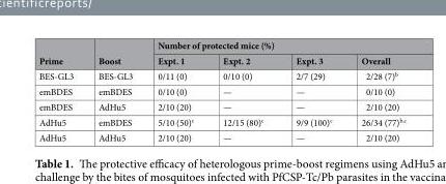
<table><thead><tr><td rowspan="2">Prime</td><td rowspan="2">Boost</td><td colspan="4">Number of protected mice (%)</td></tr><tr><td>Expt. 1</td><td>Expt. 2</td><td>Expt. 3</td><td>Overall</td></tr></thead><tbody><tr><td>BES-GL3</td><td>BES-GL3</td><td>0/11 (0)</td><td>0/10 (0)</td><td>2/7 (29)</td><td>2/28 (7)<sup>b</sup></td></tr><tr><td>emBDES</td><td>emBDES</td><td>0/10 (0)</td><td>—</td><td>—</td><td>0/10 (0)</td></tr><tr><td>emBDES</td><td>AdHu5</td><td>2/10 (20)</td><td>—</td><td>—</td><td>2/10 (20)</td></tr><tr><td>AdHu5</td><td>emBDES</td><td>5/10 (50)<sup>c</sup></td><td>12/15 (80)<sup>c</sup></td><td>9/9 (100)<sup>c</sup></td><td>26/34 (77)<sup>b,c</sup></td></tr><tr><td>AdHu5</td><td>AdHu5</td><td>2/10 (20)</td><td>—</td><td>—</td><td>2/10 (20)</td></tr></tbody></table>